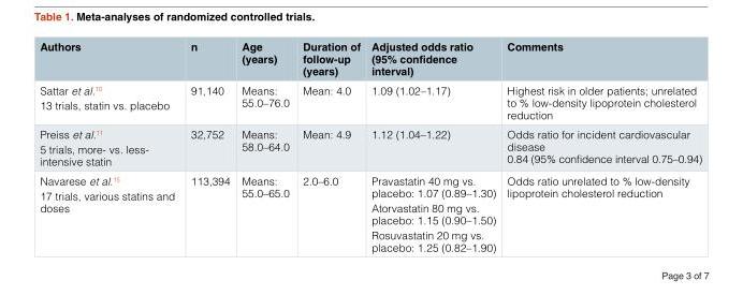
<table><thead><tr><td>Authors</td><td>n</td><td>Age (years)</td><td>Duration of follow-up (years)</td><td>Adjusted odds ratio (95% confidence interval)</td><td>Comments</td></tr></thead><tbody><tr><td>Sattar et al.<sup>10</sup> 13 trials, statin vs. placebo</td><td>91,140</td><td>Means: 55.0–76.0</td><td>Mean: 4.0</td><td>1.09 (1.02–1.17)</td><td>Highest risk in older patients; unrelated to % low-density lipoprotein cholesterol reduction</td></tr><tr><td>Preiss et al.<sup>11</sup> 5 trials, more- vs. less- intensive statin</td><td>32,752</td><td>Means: 58.0–64.0</td><td>Mean: 4.9</td><td>1.12 (1.04–1.22)</td><td>Odds ratio for incident cardiovascular disease 0.84 (95% confidence interval 0.75–0.94)</td></tr><tr><td>Navarese et al.<sup>15</sup> 17 trials, various statins and doses</td><td>113,394</td><td>Means: 55.0–65.0</td><td>2.0–6.0</td><td>Pravastatin 40 mg vs. placebo: 1.07 (0.89–1.30) Atorvastatin 80 mg vs. placebo: 1.15 (0.90–1.50) Rosuvastatin 20 mg vs. placebo: 1.25 (0.82–1.90)</td><td>Odds ratio unrelated to % low-density lipoprotein cholesterol reduction</td></tr></tbody></table>